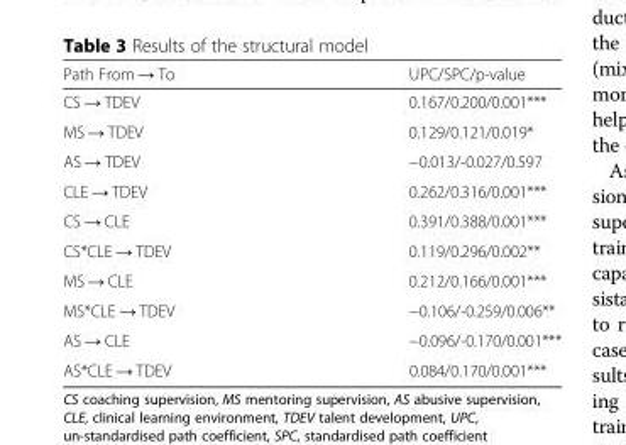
<table><thead><tr><td>Path From → To</td><td>UPC/SPC/p-value</td></tr></thead><tbody><tr><td>CS → TDEV</td><td>0.167/0.200/0.001***</td></tr><tr><td>MS → TDEV</td><td>0.129/0.121/0.019*</td></tr><tr><td>AS → TDEV</td><td>−0.013/-0.027/0.597</td></tr><tr><td>CLE → TDEV</td><td>0.262/0.316/0.001***</td></tr><tr><td>CS → CLE</td><td>0.391/0.388/0.001***</td></tr><tr><td>CS*CLE → TDEV</td><td>0.119/0.296/0.002**</td></tr><tr><td>MS → CLE</td><td>0.212/0.166/0.001***</td></tr><tr><td>MS*CLE → TDEV</td><td>−0.106/-0.259/0.006**</td></tr><tr><td>AS → CLE</td><td>−0.096/-0.170/0.001***</td></tr><tr><td>AS*CLE → TDEV</td><td>0.084/0.170/0.001***</td></tr></tbody></table>